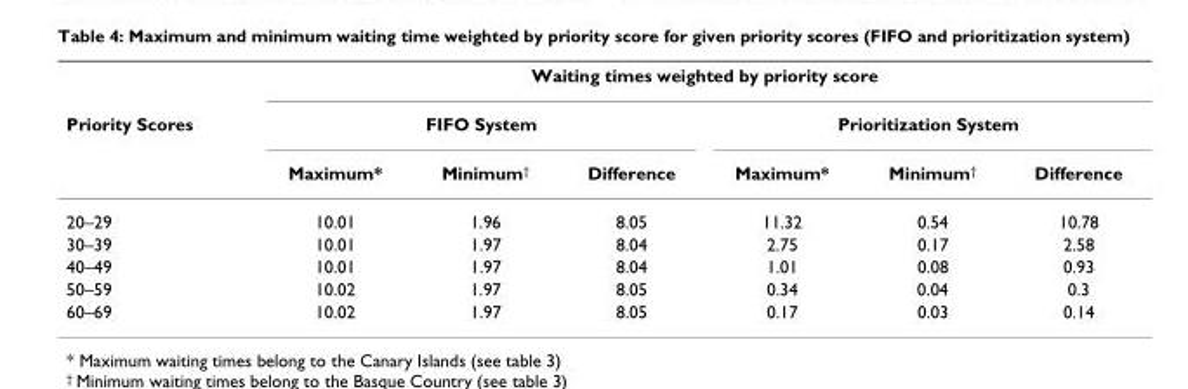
<table><thead><tr><td rowspan="3">Priority Scores</td><td colspan="6">Waiting times weighted by priority score</td></tr><tr><td colspan="3">FIFO System</td><td colspan="3">Prioritization System</td></tr><tr><td>Maximum*</td><td>Minimum<sup>†</sup></td><td>Difference</td><td>Maximum*</td><td>Minimum<sup>†</sup></td><td>Difference</td></tr></thead><tbody><tr><td>20–29</td><td>10.01</td><td>1.96</td><td>8.05</td><td>11.32</td><td>0.54</td><td>10.78</td></tr><tr><td>30–39</td><td>10.01</td><td>1.97</td><td>8.04</td><td>2.75</td><td>0.17</td><td>2.58</td></tr><tr><td>40–49</td><td>10.01</td><td>1.97</td><td>8.04</td><td>1.01</td><td>0.08</td><td>0.93</td></tr><tr><td>50–59</td><td>10.02</td><td>1.97</td><td>8.05</td><td>0.34</td><td>0.04</td><td>0.3</td></tr><tr><td>60–69</td><td>10.02</td><td>1.97</td><td>8.05</td><td>0.17</td><td>0.03</td><td>0.14</td></tr></tbody></table>